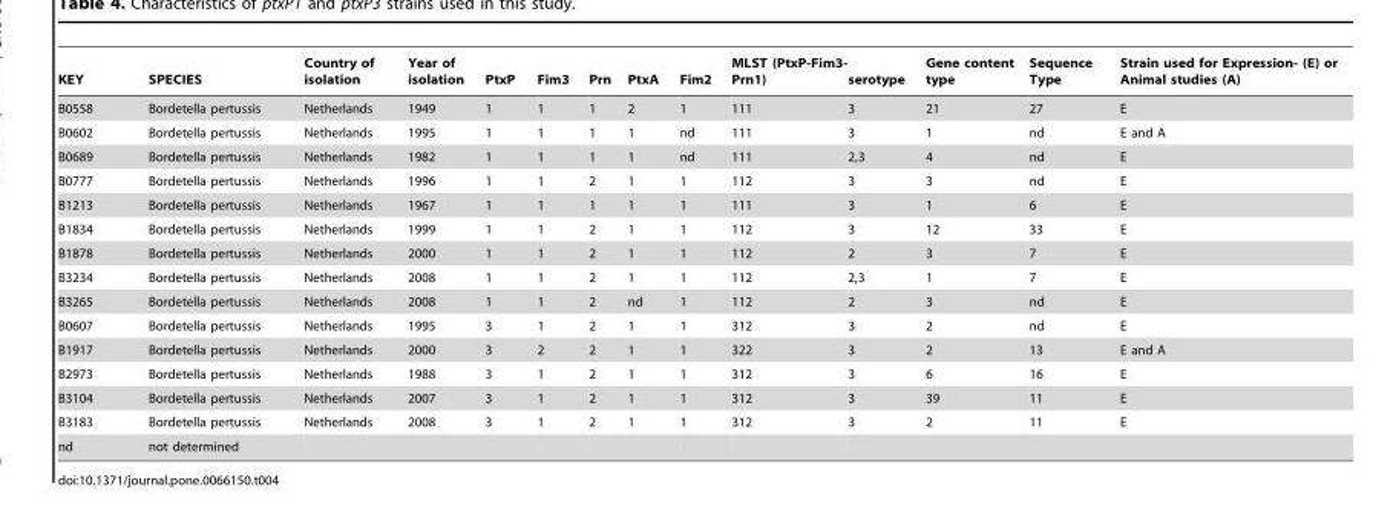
<table><thead><tr><td>KEY</td><td>SPECIES</td><td>Country of isolation</td><td>Year of isolation</td><td>PtxP</td><td>Fim3</td><td>Prn</td><td>PtxA</td><td>Fim2</td><td>MLST (PtxP-Fim3- Prn1)</td><td>serotype</td><td>Gene content type</td><td>Sequence Type</td><td>Strain used for Expression- (E) or Animal studies (A)</td></tr></thead><tbody><tr><td>B0558</td><td>Bordetella pertussis</td><td>Netherlands</td><td>1949</td><td>1</td><td>1</td><td>1</td><td>2</td><td>1</td><td>111</td><td>3</td><td>21</td><td>27</td><td>E</td></tr><tr><td>B0602</td><td>Bordetella pertussis</td><td>Netherlands</td><td>1995</td><td>1</td><td>1</td><td>1</td><td>1</td><td>nd</td><td>111</td><td>3</td><td>1</td><td>nd</td><td>E and A</td></tr><tr><td>B0689</td><td>Bordetella pertussis</td><td>Netherlands</td><td>1982</td><td>1</td><td>1</td><td>1</td><td>1</td><td>nd</td><td>111</td><td>2,3</td><td>4</td><td>nd</td><td>E</td></tr><tr><td>B0777</td><td>Bordetella pertussis</td><td>Netherlands</td><td>1996</td><td>1</td><td>1</td><td>2</td><td>1</td><td>1</td><td>112</td><td>3</td><td>3</td><td>nd</td><td>E</td></tr><tr><td>B1213</td><td>Bordetella pertussis</td><td>Netherlands</td><td>1967</td><td>1</td><td>1</td><td>1</td><td>1</td><td>1</td><td>111</td><td>3</td><td>1</td><td>6</td><td>E</td></tr><tr><td>B1834</td><td>Bordetella pertussis</td><td>Netherlands</td><td>1999</td><td>1</td><td>1</td><td>2</td><td>1</td><td>1</td><td>112</td><td>3</td><td>12</td><td>33</td><td>E</td></tr><tr><td>B1878</td><td>Bordetella pertussis</td><td>Netherlands</td><td>2000</td><td>1</td><td>1</td><td>2</td><td>1</td><td>1</td><td>112</td><td>2</td><td>3</td><td>7</td><td>E</td></tr><tr><td>B3234</td><td>Bordetella pertussis</td><td>Netherlands</td><td>2008</td><td>1</td><td>1</td><td>2</td><td>1</td><td>1</td><td>112</td><td>2,3</td><td>1</td><td>7</td><td>E</td></tr><tr><td>B3265</td><td>Bordetella pertussis</td><td>Netherlands</td><td>2008</td><td>1</td><td>1</td><td>2</td><td>nd</td><td>1</td><td>112</td><td>2</td><td>3</td><td>nd</td><td>E</td></tr><tr><td>B0607</td><td>Bordetella pertussis</td><td>Netherlands</td><td>1995</td><td>3</td><td>1</td><td>2</td><td>1</td><td>1</td><td>312</td><td>3</td><td>2</td><td>nd</td><td>E</td></tr><tr><td>B1917</td><td>Bordetella pertussis</td><td>Netherlands</td><td>2000</td><td>3</td><td>2</td><td>2</td><td>1</td><td>1</td><td>322</td><td>3</td><td>2</td><td>13</td><td>E and A</td></tr><tr><td>B2973</td><td>Bordetella pertussis</td><td>Netherlands</td><td>1988</td><td>3</td><td>1</td><td>2</td><td>1</td><td>1</td><td>312</td><td>3</td><td>6</td><td>16</td><td>E</td></tr><tr><td>B3104</td><td>Bordetella pertussis</td><td>Netherlands</td><td>2007</td><td>3</td><td>1</td><td>2</td><td>1</td><td>1</td><td>312</td><td>3</td><td>39</td><td>11</td><td>E</td></tr><tr><td>B3183</td><td>Bordetella pertussis</td><td>Netherlands</td><td>2008</td><td>3</td><td>1</td><td>2</td><td>1</td><td>1</td><td>312</td><td>3</td><td>2</td><td>11</td><td>E</td></tr><tr><td>nd</td><td>not determined</td><td></td><td></td><td></td><td></td><td></td><td></td><td></td><td></td><td></td><td></td><td></td><td></td></tr></tbody></table>